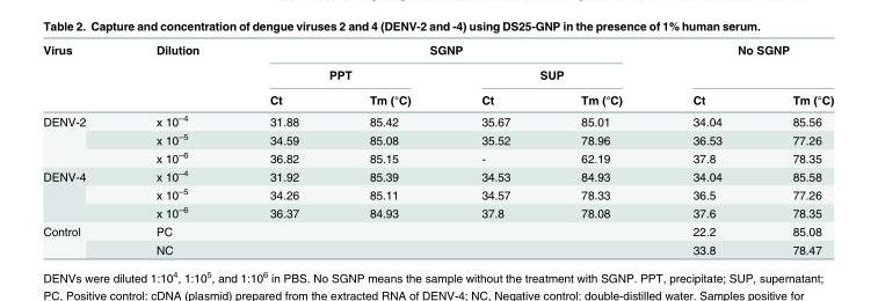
<table><thead><tr><td rowspan="3">Virus</td><td rowspan="3">Dilution</td><td colspan="4">SGNP</td><td rowspan="2" colspan="2">No SGNP</td></tr><tr><td colspan="2">PPT</td><td colspan="2">SUP</td></tr><tr><td>Ct</td><td>Tm (°C)</td><td>Ct</td><td>Tm (°C)</td><td>Ct</td><td>Tm (°C)</td></tr></thead><tbody><tr><td rowspan="3">DENV-2</td><td>x 10<sup>–4</sup></td><td>31.88</td><td>85.42</td><td>35.67</td><td>85.01</td><td>34.04</td><td>85.56</td></tr><tr><td>x 10<sup>–5</sup></td><td>34.59</td><td>85.08</td><td>35.52</td><td>78.96</td><td>36.53</td><td>77.26</td></tr><tr><td>x 10<sup>–6</sup></td><td>36.82</td><td>85.15</td><td>-</td><td>62.19</td><td>37.8</td><td>78.35</td></tr><tr><td rowspan="3">DENV-4</td><td>x 10<sup>–4</sup></td><td>31.92</td><td>85.39</td><td>34.53</td><td>84.93</td><td>34.04</td><td>85.58</td></tr><tr><td>x 10<sup>–5</sup></td><td>34.26</td><td>85.11</td><td>34.57</td><td>78.33</td><td>36.5</td><td>77.26</td></tr><tr><td>x 10<sup>–6</sup></td><td>36.37</td><td>84.93</td><td>37.8</td><td>78.08</td><td>37.6</td><td>78.35</td></tr><tr><td rowspan="2">Control</td><td>PC</td><td colspan="4"></td><td>22.2</td><td>85.08</td></tr><tr><td>NC</td><td colspan="4"></td><td>33.8</td><td>78.47</td></tr></tbody></table>